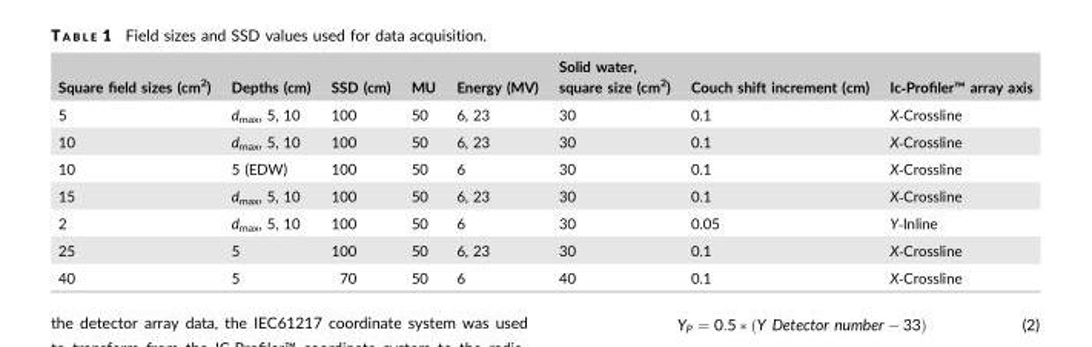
<table><thead><tr><td>Square field sizes (cm<sup>2</sup>)</td><td>Depths (cm)</td><td>SSD (cm)</td><td>MU</td><td>Energy (MV)</td><td>Solid water, square size (cm<sup>2</sup>)</td><td>Couch shift increment (cm)</td><td>Ic‐Profiler™ array axis</td></tr></thead><tbody><tr><td>5</td><td>d<sub>max</sub>, 5, 10</td><td>100</td><td>50</td><td>6, 23</td><td>30</td><td>0.1</td><td>X‐Crossline</td></tr><tr><td>10</td><td>d<sub>max</sub>, 5, 10</td><td>100</td><td>50</td><td>6, 23</td><td>30</td><td>0.1</td><td>X‐Crossline</td></tr><tr><td>10</td><td>5 (EDW)</td><td>100</td><td>50</td><td>6</td><td>30</td><td>0.1</td><td>X‐Crossline</td></tr><tr><td>15</td><td>d<sub>max</sub>, 5, 10</td><td>100</td><td>50</td><td>6, 23</td><td>30</td><td>0.1</td><td>X‐Crossline</td></tr><tr><td>2</td><td>d<sub>max</sub>, 5, 10</td><td>100</td><td>50</td><td>6</td><td>30</td><td>0.05</td><td>Y‐Inline</td></tr><tr><td>25</td><td>5</td><td>100</td><td>50</td><td>6, 23</td><td>30</td><td>0.1</td><td>X‐Crossline</td></tr><tr><td>40</td><td>5</td><td>70</td><td>50</td><td>6</td><td>40</td><td>0.1</td><td>X‐Crossline</td></tr></tbody></table>